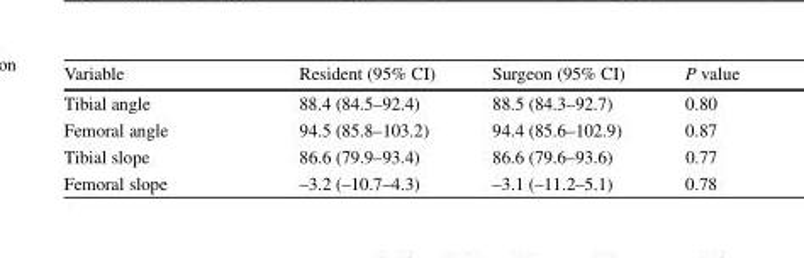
<table><thead><tr><td>Variable</td><td>Resident (95% CI)</td><td>Surgeon (95% CI)</td><td>P value</td></tr></thead><tbody><tr><td>Tibial angle</td><td>88.4 (84.5–92.4)</td><td>88.5 (84.3–92.7)</td><td>0.80</td></tr><tr><td>Femoral angle</td><td>94.5 (85.8–103.2)</td><td>94.4 (85.6–102.9)</td><td>0.87</td></tr><tr><td>Tibial slope</td><td>86.6 (79.9–93.4)</td><td>86.6 (79.6–93.6)</td><td>0.77</td></tr><tr><td>Femoral slope</td><td>–3.2 (–10.7–4.3)</td><td>–3.1 (–11.2–5.1)</td><td>0.78</td></tr></tbody></table>